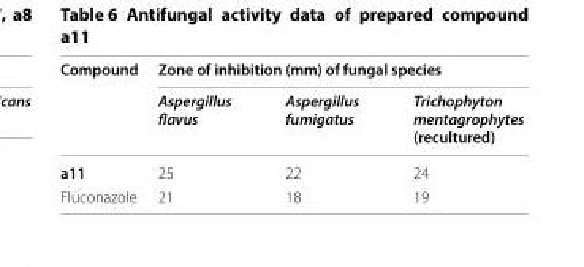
<table><thead><tr><td rowspan="2">Compound</td><td colspan="3">Zone of inhibition (mm) of fungal species</td></tr><tr><td>Aspergillus flavus</td><td>Aspergillus fumigatus</td><td>Trichophyton mentagrophytes (recultured)</td></tr></thead><tbody><tr><td>a11</td><td>25</td><td>22</td><td>24</td></tr><tr><td>Fluconazole</td><td>21</td><td>18</td><td>19</td></tr></tbody></table>